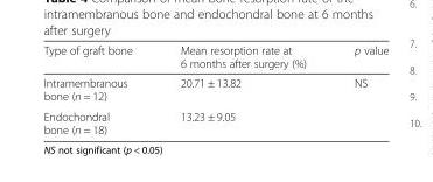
<table><thead><tr><td>Type of graft bone</td><td>Mean resorption rate at 6 months after surgery (%)</td><td>p value</td></tr></thead><tbody><tr><td>Intramembranous bone (n = 12)</td><td>20.71 ± 13.82</td><td rowspan="2">NS</td></tr><tr><td>Endochondral bone (n = 18)</td><td>13.23 ± 9.05</td></tr></tbody></table>